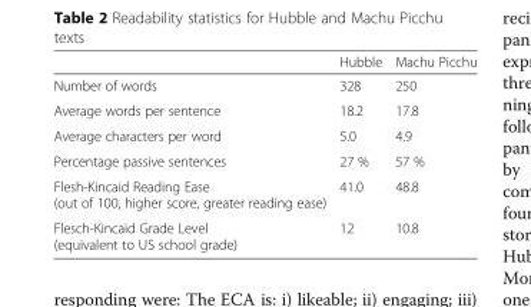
<table><thead><tr><td></td><td>Hubble</td><td>Machu Picchu</td></tr></thead><tbody><tr><td>Number of words</td><td>328</td><td>250</td></tr><tr><td>Average words per sentence</td><td>18.2</td><td>17.8</td></tr><tr><td>Average characters per word</td><td>5.0</td><td>4.9</td></tr><tr><td>Percentage passive sentences</td><td>27 %</td><td>57 %</td></tr><tr><td>Flesh-Kincaid Reading Ease (out of 100, higher score, greater reading ease)</td><td>41.0</td><td>48.8</td></tr><tr><td>Flesch-Kincaid Grade Level (equivalent to US school grade)</td><td>12</td><td>10.8</td></tr></tbody></table>